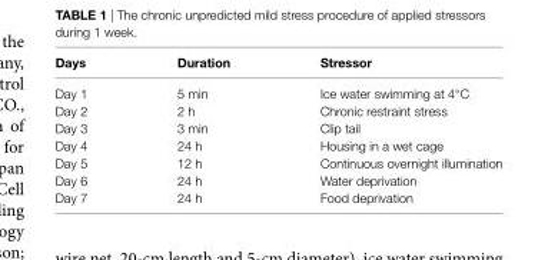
<table><thead><tr><td>Days</td><td>Duration</td><td>stressor</td></tr></thead><tbody><tr><td>Day 1</td><td>5 min</td><td>Ice water swimming at 4°C</td></tr><tr><td>Day 2</td><td>2 h</td><td>Chronic restraint stress</td></tr><tr><td>Day 3</td><td>3 min</td><td>Clip tail</td></tr><tr><td>Day 4</td><td>24 h</td><td>Housing in a wet cage</td></tr><tr><td>Day 5</td><td>12 h</td><td>Continuous overnight illumination</td></tr><tr><td>Day 6</td><td>24 h</td><td>Water deprivation</td></tr><tr><td>Day 7</td><td>24 h</td><td>Food deprivation</td></tr></tbody></table>